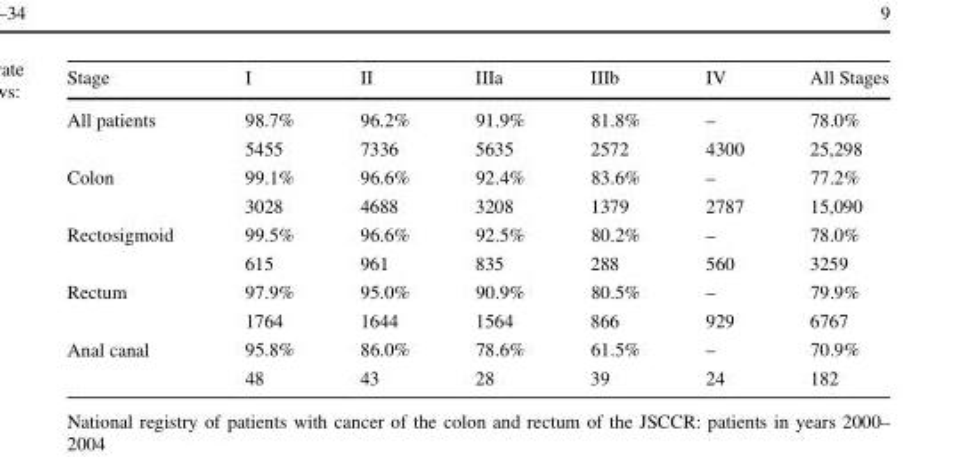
<table><thead><tr><td>Stage</td><td>I</td><td>II</td><td>IIIa</td><td>IIIb</td><td>IV</td><td>All Stages</td></tr></thead><tbody><tr><td rowspan="2">All patients</td><td>98.7%</td><td>96.2%</td><td>91.9%</td><td>81.8%</td><td>–</td><td>78.0%</td></tr><tr><td>5455</td><td>7336</td><td>5635</td><td>2572</td><td>4300</td><td>25,298</td></tr><tr><td rowspan="2">Colon</td><td>99.1%</td><td>96.6%</td><td>92.4%</td><td>83.6%</td><td>–</td><td>77.2%</td></tr><tr><td>3028</td><td>4688</td><td>3208</td><td>1379</td><td>2787</td><td>15,090</td></tr><tr><td rowspan="2">Rectosigmoid</td><td>99.5%</td><td>96.6%</td><td>92.5%</td><td>80.2%</td><td>–</td><td>78.0%</td></tr><tr><td>615</td><td>961</td><td>835</td><td>288</td><td>560</td><td>3259</td></tr><tr><td rowspan="2">Rectum</td><td>97.9%</td><td>95.0%</td><td>90.9%</td><td>80.5%</td><td>–</td><td>79.9%</td></tr><tr><td>1764</td><td>1644</td><td>1564</td><td>866</td><td>929</td><td>6767</td></tr><tr><td rowspan="2">Anal canal</td><td>95.8%</td><td>86.0%</td><td>78.6%</td><td>61.5%</td><td>–</td><td>70.9%</td></tr><tr><td>48</td><td>43</td><td>28</td><td>39</td><td>24</td><td>182</td></tr></tbody></table>